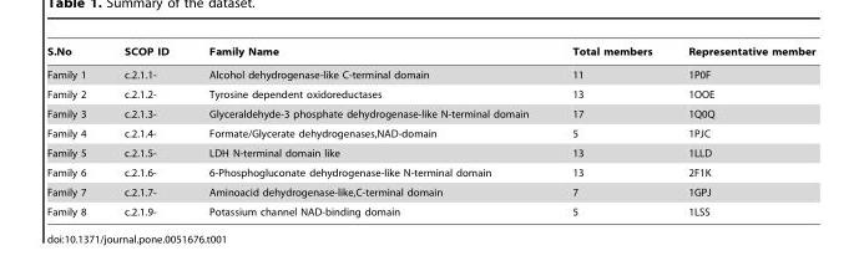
<table><thead><tr><td>S.No</td><td>SCOP ID</td><td>Family Name</td><td>Total members</td><td>Representative member</td></tr></thead><tbody><tr><td>Family 1</td><td>c.2.1.1-</td><td>Alcohol dehydrogenase-like C-terminal domain</td><td>11</td><td>1P0F</td></tr><tr><td>Family 2</td><td>c.2.1.2-</td><td>Tyrosine dependent oxidoreductases</td><td>13</td><td>1OOE</td></tr><tr><td>Family 3</td><td>c.2.1.3-</td><td>Glyceraldehyde-3 phosphate dehydrogenase-like N-terminal domain</td><td>17</td><td>1Q0Q</td></tr><tr><td>Family 4</td><td>c.2.1.4-</td><td>Formate/Glycerate dehydrogenases,NAD-domain</td><td>5</td><td>1PJC</td></tr><tr><td>Family 5</td><td>c.2.1.5-</td><td>LDH N-terminal domain like</td><td>13</td><td>1LLD</td></tr><tr><td>Family 6</td><td>c.2.1.6-</td><td>6-Phosphogluconate dehydrogenase-like N-terminal domain</td><td>13</td><td>2F1K</td></tr><tr><td>Family 7</td><td>c.2.1.7-</td><td>Aminoacid dehydrogenase-like,C-terminal domain</td><td>7</td><td>1GPJ</td></tr><tr><td>Family 8</td><td>c.2.1.9-</td><td>Potassium channel NAD-binding domain</td><td>5</td><td>1LSS</td></tr></tbody></table>